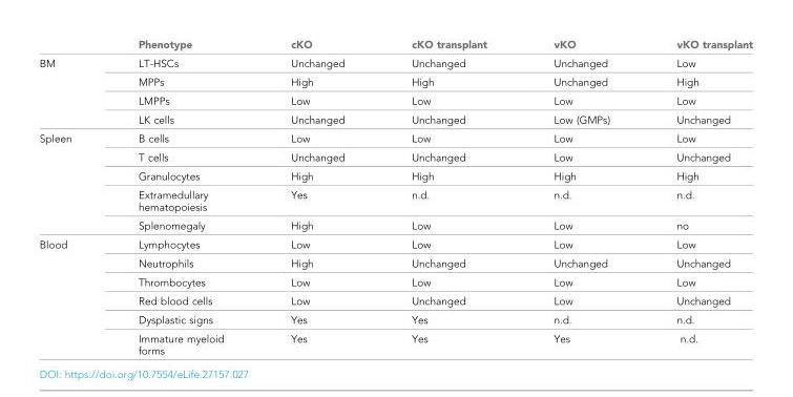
<table><thead><tr><td></td><td>Phenotype</td><td>cKO</td><td>cKO transplant</td><td>vKO</td><td>vKO transplant</td></tr></thead><tbody><tr><td rowspan="4">BM</td><td>LT-HSCs</td><td>Unchanged</td><td>Unchanged</td><td>Unchanged</td><td>Low</td></tr><tr><td>MPPs</td><td>High</td><td>High</td><td>Unchanged</td><td>High</td></tr><tr><td>LMPPs</td><td>Low</td><td>Low</td><td>Low</td><td>Low</td></tr><tr><td>LK cells</td><td>Unchanged</td><td>Unchanged</td><td>Low (GMPs)</td><td>Unchanged</td></tr><tr><td rowspan="5">Spleen</td><td>B cells</td><td>Low</td><td>Low</td><td>Low</td><td>Low</td></tr><tr><td>T cells</td><td>Unchanged</td><td>Unchanged</td><td>Low</td><td>Unchanged</td></tr><tr><td>Granulocytes</td><td>High</td><td>High</td><td>High</td><td>High</td></tr><tr><td>Extramedullary hematopoiesis</td><td>Yes</td><td>n.d.</td><td>n.d.</td><td>n.d.</td></tr><tr><td>Splenomegaly</td><td>High</td><td>Low</td><td>Low</td><td>no</td></tr><tr><td rowspan="6">Blood</td><td>Lymphocytes</td><td>Low</td><td>Low</td><td>Low</td><td>Low</td></tr><tr><td>Neutrophils</td><td>High</td><td>Unchanged</td><td>Unchanged</td><td>Unchanged</td></tr><tr><td>Thrombocytes</td><td>Low</td><td>Low</td><td>Low</td><td>Low</td></tr><tr><td>Red blood cells</td><td>Low</td><td>Unchanged</td><td>Low</td><td>Unchanged</td></tr><tr><td>Dysplastic signs</td><td>Yes</td><td>Yes</td><td>n.d.</td><td>n.d.</td></tr><tr><td>Immature myeloid forms</td><td>Yes</td><td>Yes</td><td>Yes</td><td>n.d.</td></tr></tbody></table>